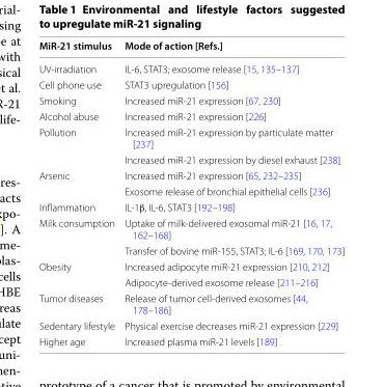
<table><thead><tr><td>MiR‑21 stimulus</td><td>Mode of action [Refs.]</td></tr></thead><tbody><tr><td>UV-irradiation</td><td>IL-6, STAT3; exosome release [15, 135–137]</td></tr><tr><td>Cell phone use</td><td>STAT3 upregulation [156]</td></tr><tr><td>Smoking</td><td>Increased miR-21 expression [67, 230]</td></tr><tr><td>Alcohol abuse</td><td>Increased miR-21 expression [226]</td></tr><tr><td rowspan="2">Pollution</td><td>Increased miR-21 expression by particulate matter [237]</td></tr><tr><td>Increased miR-21 expression by diesel exhaust [238]</td></tr><tr><td rowspan="2">Arsenic</td><td>Increased miR-21 expression [65, 232–235]</td></tr><tr><td>Exosome release of bronchial epithelial cells [236]</td></tr><tr><td>Inflammation</td><td>IL-1β, IL-6, STAT3 [192–198]</td></tr><tr><td rowspan="2">Milk consumption</td><td>Uptake of milk-delivered exosomal miR-21 [16, 17, 162–168]</td></tr><tr><td>Transfer of bovine miR-155, STAT3; IL-6 [169, 170, 173]</td></tr><tr><td rowspan="2">Obesity</td><td>Increased adipocyte miR-21 expression [210, 212]</td></tr><tr><td>Adipocyte-derived exosome release [211–216]</td></tr><tr><td>Tumor diseases</td><td>Release of tumor cell-derived exosomes [44, 178–186]</td></tr><tr><td>Sedentary lifestyle</td><td>Physical exercise decreases miR-21 expression [229]</td></tr><tr><td>Higher age</td><td>Increased plasma miR-21 levels [189]</td></tr></tbody></table>